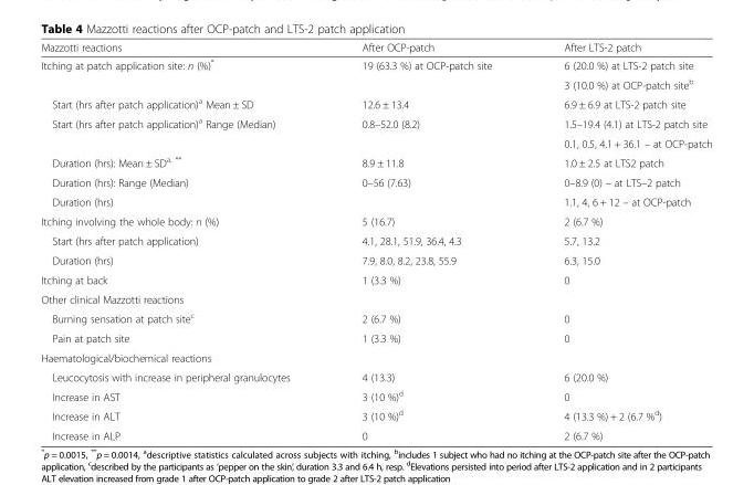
<table><thead><tr><td>Mazzotti reactions</td><td>After OCP-patch</td><td>After LTS-2 patch</td></tr></thead><tbody><tr><td rowspan="2">Itching at patch application site: n (%)*</td><td>19 (63.3 %) at OCP-patch site</td><td>6 (20.0 %) at LTS-2 patch site</td></tr><tr><td></td><td>3 (10.0 %) at OCP-patch site<sup>b</sup></td></tr><tr><td>Start (hrs after patch application)<sup>a</sup> Mean ± SD</td><td>12.6 ± 13.4</td><td>6.9 ± 6.9 at LTS-2 patch site</td></tr><tr><td rowspan="2">Start (hrs after patch application)<sup>a</sup> Range (Median)</td><td>0.8–52.0 (8.2)</td><td>1.5–19.4 (4.1) at LTS-2 patch site</td></tr><tr><td></td><td>0.1, 0.5, 4.1 + 36.1 – at OCP-patch</td></tr><tr><td>Duration (hrs): Mean ± SD<sup>a, **</sup></td><td>8.9 ± 11.8</td><td>1.0 ± 2.5 at LTS2 patch</td></tr><tr><td>Duration (hrs): Range (Median)</td><td>0–56 (7.63)</td><td>0–8.9 (0) – at LTS–2 patch</td></tr><tr><td>Duration (hrs)</td><td></td><td>1.1, 4, 6 + 12 – at OCP-patch</td></tr><tr><td>Itching involving the whole body: n (%)</td><td>5 (16.7)</td><td>2 (6.7 %)</td></tr><tr><td>Start (hrs after patch application)</td><td>4.1, 28.1, 51.9, 36.4, 4.3</td><td>5.7, 13.2</td></tr><tr><td>Duration (hrs)</td><td>7.9, 8.0, 8.2, 23.8, 55.9</td><td>6.3, 15.0</td></tr><tr><td>Itching at back</td><td>1 (3.3 %)</td><td>0</td></tr><tr><td colspan="3">Other clinical Mazzotti reactions</td></tr><tr><td>Burning sensation at patch site<sup>c</sup></td><td>2 (6.7 %)</td><td>0</td></tr><tr><td>Pain at patch site</td><td>1 (3.3 %)</td><td>0</td></tr><tr><td colspan="3">Haematological/biochemical reactions</td></tr><tr><td>Leucocytosis with increase in peripheral granulocytes</td><td>4 (13.3)</td><td>6 (20.0 %)</td></tr><tr><td>Increase in AST</td><td>3 (10 %)<sup>d</sup></td><td>0</td></tr><tr><td>Increase in ALT</td><td>3 (10 %)<sup>d</sup></td><td>4 (13.3 %) + 2 (6.7 %<sup>d</sup>)</td></tr><tr><td>Increase in ALP</td><td>0</td><td>2 (6.7 %)</td></tr></tbody></table>